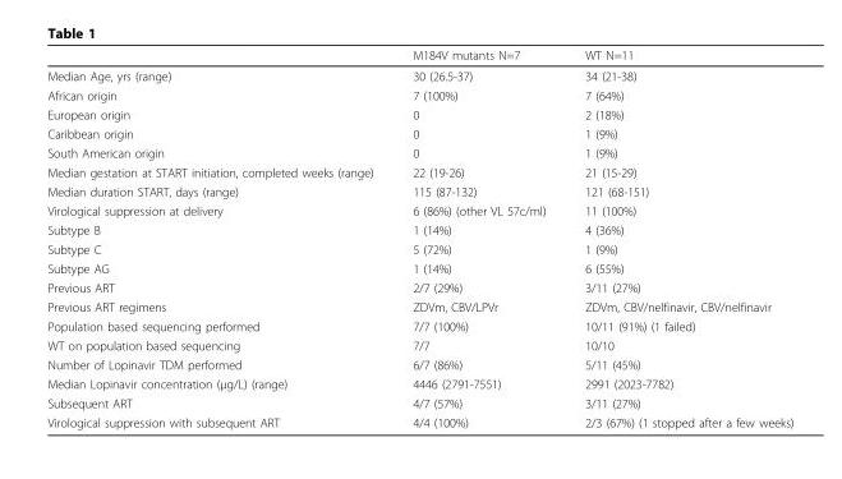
<table><thead><tr><td></td><td>M184V mutants N=7</td><td>WT N=11</td></tr></thead><tbody><tr><td>Median Age, yrs (range)</td><td>30 (26.5-37)</td><td>34 (21-38)</td></tr><tr><td>African origin</td><td>7 (100%)</td><td>7 (64%)</td></tr><tr><td>European origin</td><td>0</td><td>2 (18%)</td></tr><tr><td>Caribbean origin</td><td>0</td><td>1 (9%)</td></tr><tr><td>South American origin</td><td>0</td><td>1 (9%)</td></tr><tr><td>Median gestation at START initiation, completed weeks (range)</td><td>22 (19-26)</td><td>21 (15-29)</td></tr><tr><td>Median duration START, days (range)</td><td>115 (87-132)</td><td>121 (68-151)</td></tr><tr><td>Virological suppression at delivery</td><td>6 (86%) (other VL 57c/ml)</td><td>11 (100%)</td></tr><tr><td>Subtype B</td><td>1 (14%)</td><td>4 (36%)</td></tr><tr><td>Subtype C</td><td>5 (72%)</td><td>1 (9%)</td></tr><tr><td>Subtype AG</td><td>1 (14%)</td><td>6 (55%)</td></tr><tr><td>Previous ART</td><td>2/7 (29%)</td><td>3/11 (27%)</td></tr><tr><td>Previous ART regimens</td><td>ZDVm, CBV/LPVr</td><td>ZDVm, CBV/nelfinavir, CBV/nelfinavir</td></tr><tr><td>Population based sequencing performed</td><td>7/7 (100%)</td><td>10/11 (91%) (1 failed)</td></tr><tr><td>WT on population based sequencing</td><td>7/7</td><td>10/10</td></tr><tr><td>Number of Lopinavir TDM performed</td><td>6/7 (86%)</td><td>5/11 (45%)</td></tr><tr><td>Median Lopinavir concentration (µg/L) (range)</td><td>4446 (2791-7551)</td><td>2991 (2023-7782)</td></tr><tr><td>Subsequent ART</td><td>4/7 (57%)</td><td>3/11 (27%)</td></tr><tr><td>Virological suppression with subsequent ART</td><td>4/4 (100%)</td><td>2/3 (67%) (1 stopped after a few weeks)</td></tr></tbody></table>